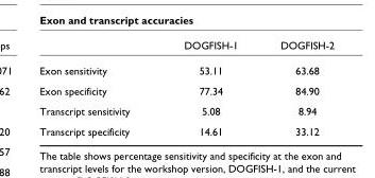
<table><thead><tr><td></td><td>DOGFISH-1</td><td>DOGFISH-2</td></tr></thead><tbody><tr><td>Exon sensitivity</td><td>53.11</td><td>63.68</td></tr><tr><td>Exon specificity</td><td>77.34</td><td>84.90</td></tr><tr><td>Transcript sensitivity</td><td>5.08</td><td>8.94</td></tr><tr><td>Transcript specificity</td><td>14.61</td><td>33.12</td></tr></tbody></table>